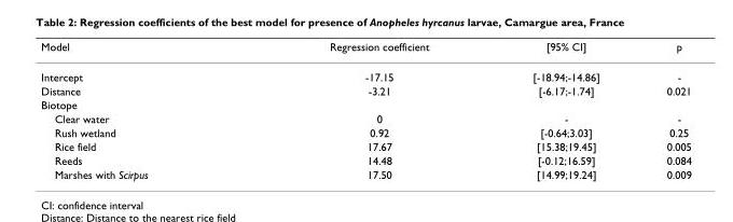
<table><thead><tr><td>Model</td><td>Regression coefficient</td><td>[95% CI]</td><td>p</td></tr></thead><tbody><tr><td>Intercept</td><td>-17.15</td><td>[-18.94;-14.86]</td><td>-</td></tr><tr><td>Distance</td><td>-3.21</td><td>[-6.17;-1.74]</td><td>0.021</td></tr><tr><td colspan="4">Biotope</td></tr><tr><td>Clear water</td><td>0</td><td>-</td><td>-</td></tr><tr><td>Rush wetland</td><td>0.92</td><td>[-0.64;3.03]</td><td>0.25</td></tr><tr><td>Rice field</td><td>17.67</td><td>[15.38;19.45]</td><td>0.005</td></tr><tr><td>Reeds</td><td>14.48</td><td>[-0.12;16.59]</td><td>0.084</td></tr><tr><td>Marshes with Scirpus</td><td>17.50</td><td>[14.99;19.24]</td><td>0.009</td></tr></tbody></table>